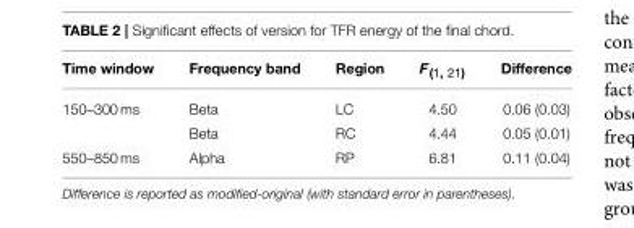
<table><thead><tr><td>Time window</td><td>Frequency band</td><td>Region</td><td>F<sub>(1, 21)</sub></td><td>Difference</td></tr></thead><tbody><tr><td rowspan="2">150–300 ms</td><td>Beta</td><td>LC</td><td>4.50</td><td>0.06 (0.03)</td></tr><tr><td>Beta</td><td>RC</td><td>4.44</td><td>0.05 (0.01)</td></tr><tr><td>550–850 ms</td><td>Alpha</td><td>RP</td><td>6.81</td><td>0.11 (0.04)</td></tr></tbody></table>